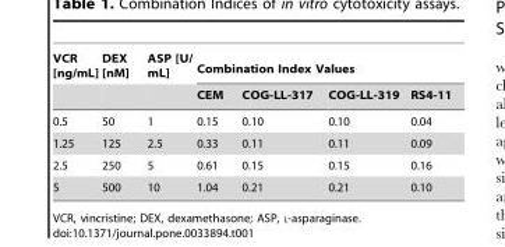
<table><thead><tr><td rowspan="2">VCR [ng/mL]</td><td rowspan="2">DEX [nM]</td><td rowspan="2">ASP [U/ mL]</td><td colspan="4">Combination Index Values</td></tr><tr><td>CEM</td><td>COG-LL-317</td><td>COG-LL-319</td><td>RS4-11</td></tr></thead><tbody><tr><td>0.5</td><td>50</td><td>1</td><td>0.15</td><td>0.10</td><td>0.10</td><td>0.04</td></tr><tr><td>1.25</td><td>125</td><td>2.5</td><td>0.33</td><td>0.11</td><td>0.11</td><td>0.09</td></tr><tr><td>2.5</td><td>250</td><td>5</td><td>0.61</td><td>0.15</td><td>0.15</td><td>0.16</td></tr><tr><td>5</td><td>500</td><td>10</td><td>1.04</td><td>0.21</td><td>0.21</td><td>0.10</td></tr></tbody></table>